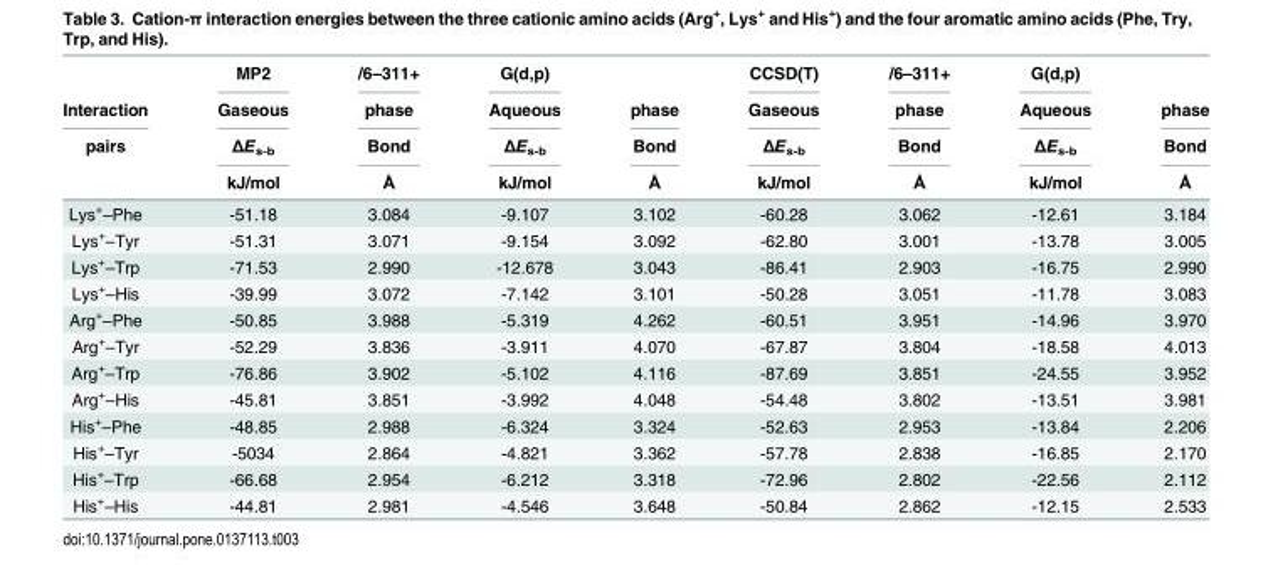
<table><thead><tr><td rowspan="4">Interaction pairs</td><td rowspan="4">MP2 Gaseous ΔE<sub>s-b</sub> kJ/mol</td><td rowspan="4">/6–311+ phase Bond Å</td><td rowspan="4">G(d,p) Aqueous ΔE<sub>s-b</sub> kJ/mol</td><td rowspan="4">phase Bond Å</td><td rowspan="4">CCSD(T) Gaseous ΔE<sub>s-b</sub> kJ/mol</td><td rowspan="4">/6–311+ phase Bond Å</td><td rowspan="4">G(d,p) Aqueous ΔE<sub>s-b</sub> kJ/mol</td><td rowspan="4">phase Bond Å</td></tr><tr></tr><tr></tr><tr></tr></thead><tbody><tr><td>Lys<sup>+</sup>–Phe</td><td>-51.18</td><td>3.084</td><td>-9.107</td><td>3.102</td><td>-60.28</td><td>3.062</td><td>-12.61</td><td>3.184</td></tr><tr><td>Lys<sup>+</sup>–Tyr</td><td>-51.31</td><td>3.071</td><td>-9.154</td><td>3.092</td><td>-62.80</td><td>3.001</td><td>-13.78</td><td>3.005</td></tr><tr><td>Lys<sup>+</sup>–Trp</td><td>-71.53</td><td>2.990</td><td>-12.678</td><td>3.043</td><td>-86.41</td><td>2.903</td><td>-16.75</td><td>2.990</td></tr><tr><td>Lys<sup>+</sup>–His</td><td>-39.99</td><td>3.072</td><td>-7.142</td><td>3.101</td><td>-50.28</td><td>3.051</td><td>-11.78</td><td>3.083</td></tr><tr><td>Arg<sup>+</sup>–Phe</td><td>-50.85</td><td>3.988</td><td>-5.319</td><td>4.262</td><td>-60.51</td><td>3.951</td><td>-14.96</td><td>3.970</td></tr><tr><td>Arg<sup>+</sup>–Tyr</td><td>-52.29</td><td>3.836</td><td>-3.911</td><td>4.070</td><td>-67.87</td><td>3.804</td><td>-18.58</td><td>4.013</td></tr><tr><td>Arg<sup>+</sup>–Trp</td><td>-76.86</td><td>3.902</td><td>-5.102</td><td>4.116</td><td>-87.69</td><td>3.851</td><td>-24.55</td><td>3.952</td></tr><tr><td>Arg<sup>+</sup>–His</td><td>-45.81</td><td>3.851</td><td>-3.992</td><td>4.048</td><td>-54.48</td><td>3.802</td><td>-13.51</td><td>3.981</td></tr><tr><td>His<sup>+</sup>–Phe</td><td>-48.85</td><td>2.988</td><td>-6.324</td><td>3.324</td><td>-52.63</td><td>2.953</td><td>-13.84</td><td>2.206</td></tr><tr><td>His<sup>+</sup>–Tyr</td><td>-5034</td><td>2.864</td><td>-4.821</td><td>3.362</td><td>-57.78</td><td>2.838</td><td>-16.85</td><td>2.170</td></tr><tr><td>His<sup>+</sup>–Trp</td><td>-66.68</td><td>2.954</td><td>-6.212</td><td>3.318</td><td>-72.96</td><td>2.802</td><td>-22.56</td><td>2.112</td></tr><tr><td>His<sup>+</sup>–His</td><td>-44.81</td><td>2.981</td><td>-4.546</td><td>3.648</td><td>-50.84</td><td>2.862</td><td>-12.15</td><td>2.533</td></tr></tbody></table>